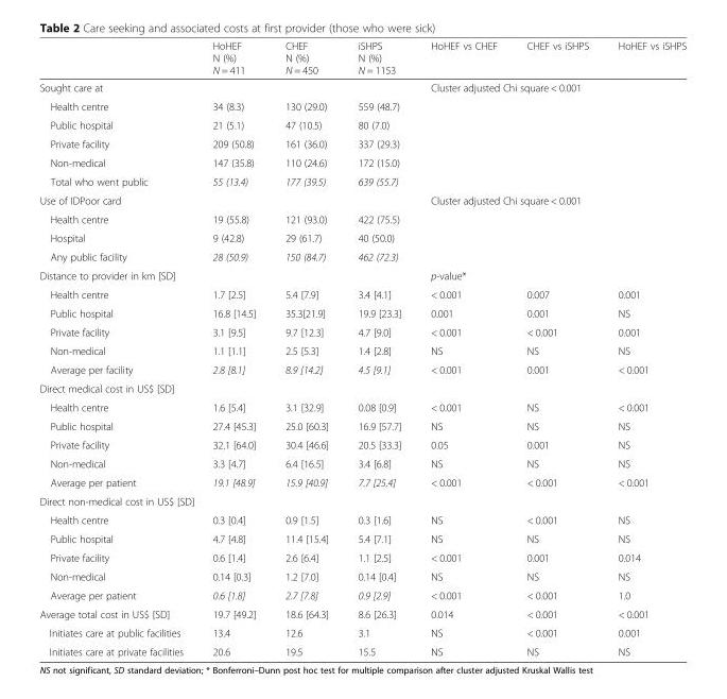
<table><thead><tr><td></td><td>HoHEF N (%) N = 411</td><td>CHEF N (%) N = 450</td><td>iSHPS N (%) N = 1153</td><td>HoHEF vs CHEF</td><td>CHEF vs iSHPS</td><td>HoHEF vs iSHPS</td></tr></thead><tbody><tr><td colspan="4">Sought care at</td><td colspan="3">Cluster adjusted Chi square &lt; 0.001</td></tr><tr><td>Health centre</td><td>34 (8.3)</td><td>130 (29.0)</td><td>559 (48.7)</td><td></td><td></td><td></td></tr><tr><td>Public hospital</td><td>21 (5.1)</td><td>47 (10.5)</td><td>80 (7.0)</td><td></td><td></td><td></td></tr><tr><td>Private facility</td><td>209 (50.8)</td><td>161 (36.0)</td><td>337 (29.3)</td><td></td><td></td><td></td></tr><tr><td>Non-medical</td><td>147 (35.8)</td><td>110 (24.6)</td><td>172 (15.0)</td><td></td><td></td><td></td></tr><tr><td>Total who went public</td><td>55 (13.4)</td><td>177 (39.5)</td><td>639 (55.7)</td><td></td><td></td><td></td></tr><tr><td colspan="4">Use of IDPoor card</td><td colspan="3">Cluster adjusted Chi square &lt; 0.001</td></tr><tr><td>Health centre</td><td>19 (55.8)</td><td>121 (93.0)</td><td>422 (75.5)</td><td></td><td></td><td></td></tr><tr><td>Hospital</td><td>9 (42.8)</td><td>29 (61.7)</td><td>40 (50.0)</td><td></td><td></td><td></td></tr><tr><td>Any public facility</td><td>28 (50.9)</td><td>150 (84.7)</td><td>462 (72.3)</td><td></td><td></td><td></td></tr><tr><td colspan="4">Distance to provider in km [SD]</td><td colspan="3">p-value*</td></tr><tr><td>Health centre</td><td>1.7 [2.5]</td><td>5.4 [7.9]</td><td>3.4 [4.1]</td><td>&lt; 0.001</td><td>0.007</td><td>0.001</td></tr><tr><td>Public hospital</td><td>16.8 [14.5]</td><td>35.3[21.9]</td><td>19.9 [23.3]</td><td>0.001</td><td>0.001</td><td>NS</td></tr><tr><td>Private facility</td><td>3.1 [9.5]</td><td>9.7 [12.3]</td><td>4.7 [9.0]</td><td>&lt; 0.001</td><td>&lt; 0.001</td><td>0.001</td></tr><tr><td>Non-medical</td><td>1.1 [1.1]</td><td>2.5 [5.3]</td><td>1.4 [2.8]</td><td>NS</td><td>NS</td><td>NS</td></tr><tr><td>Average per facility</td><td>2.8 [8.1]</td><td>8.9 [14.2]</td><td>4.5 [9.1]</td><td>&lt; 0.001</td><td>0.001</td><td>&lt; 0.001</td></tr><tr><td colspan="7">Direct medical cost in US$ [SD]</td></tr><tr><td>Health centre</td><td>1.6 [5.4]</td><td>3.1 [32.9]</td><td>0.08 [0.9]</td><td>&lt; 0.001</td><td>NS</td><td>&lt; 0.001</td></tr><tr><td>Public hospital</td><td>27.4 [45.3]</td><td>25.0 [60.3]</td><td>16.9 [57.7]</td><td>NS</td><td>NS</td><td>NS</td></tr><tr><td>Private facility</td><td>32.1 [64.0]</td><td>30.4 [46.6]</td><td>20.5 [33.3]</td><td>0.05</td><td>0.001</td><td>NS</td></tr><tr><td>Non-medical</td><td>3.3 [4.7]</td><td>6.4 [16.5]</td><td>3.4 [6.8]</td><td>NS</td><td>NS</td><td>NS</td></tr><tr><td>Average per patient</td><td>19.1 [48.9]</td><td>15.9 [40.9]</td><td>7.7 [25.4]</td><td>&lt; 0.001</td><td>&lt; 0.001</td><td>&lt; 0.001</td></tr><tr><td colspan="7">Direct non-medical cost in US$ [SD]</td></tr><tr><td>Health centre</td><td>0.3 [0.4]</td><td>0.9 [1.5]</td><td>0.3 [1.6]</td><td>NS</td><td>&lt; 0.001</td><td>NS</td></tr><tr><td>Public hospital</td><td>4.7 [4.8]</td><td>11.4 [15.4]</td><td>5.4 [7.1]</td><td>NS</td><td>NS</td><td>NS</td></tr><tr><td>Private facility</td><td>0.6 [1.4]</td><td>2.6 [6.4]</td><td>1.1 [2.5]</td><td>&lt; 0.001</td><td>0.001</td><td>0.014</td></tr><tr><td>Non-medical</td><td>0.14 [0.3]</td><td>1.2 [7.0]</td><td>0.14 [0.4]</td><td>NS</td><td>NS</td><td>NS</td></tr><tr><td>Average per patient</td><td>0.6 [1.8]</td><td>2.7 [7.8]</td><td>0.9 [2.9]</td><td>&lt; 0.001</td><td>&lt; 0.001</td><td>1.0</td></tr><tr><td>Average total cost in US$ [SD]</td><td>19.7 [49.2]</td><td>18.6 [64.3]</td><td>8.6 [26.3]</td><td>0.014</td><td>&lt; 0.001</td><td>&lt; 0.001</td></tr><tr><td>Initiates care at public facilities</td><td>13.4</td><td>12.6</td><td>3.1</td><td>NS</td><td>&lt; 0.001</td><td>0.001</td></tr><tr><td>Initiates care at private facilities</td><td>20.6</td><td>19.5</td><td>15.5</td><td>NS</td><td>NS</td><td>NS</td></tr></tbody></table>